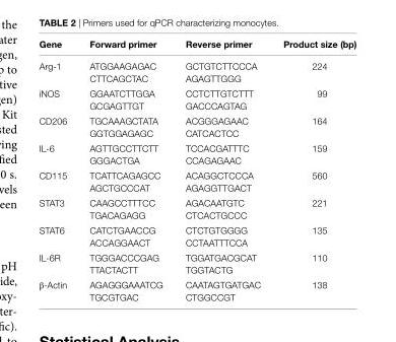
<table><thead><tr><td>gene</td><td>Forward primer</td><td>reverse primer</td><td>Product size (bp)</td></tr></thead><tbody><tr><td>Arg-1</td><td>ATGGAAGAGAC CTTCAGCTAC</td><td>GCTGTCTTCCCA AGAGTTGGG</td><td>224</td></tr><tr><td>iNOS</td><td>GGAATCTTGGA GCGAGTTGT</td><td>CCTCTTGTCTTT GACCCAGTAG</td><td>99</td></tr><tr><td>CD206</td><td>TGCAAAGCTATA GGTGGAGAGC</td><td>ACGGGAGAAC CATCACTCC</td><td>164</td></tr><tr><td>IL-6</td><td>AGTTGCCTTCTT GGGACTGA</td><td>TCCACGATTTC CCAGAGAAC</td><td>159</td></tr><tr><td>CD115</td><td>TCATTCAGAGCC AGCTGCCCAT</td><td>ACAGGCTCCCA AGAGGTTGACT</td><td>560</td></tr><tr><td>STAT3</td><td>CAAGCCTTTCC TGACAGAGG</td><td>AGACAATGTC CTCACTGCCC</td><td>221</td></tr><tr><td>STAT6</td><td>CATCTGAACCG ACCAGGAACT</td><td>CTCTGTGGGG CCTAATTTCCA</td><td>135</td></tr><tr><td>IL-6R</td><td>TGGGACCCGAG TTACTACTT</td><td>TGGATGACGCAT TGGTACTG</td><td>110</td></tr><tr><td>β-Actin</td><td>AGAGGGAAATCG TGCGTGAC</td><td>CAATAGTGATGAC CTGGCCGT</td><td>138</td></tr></tbody></table>